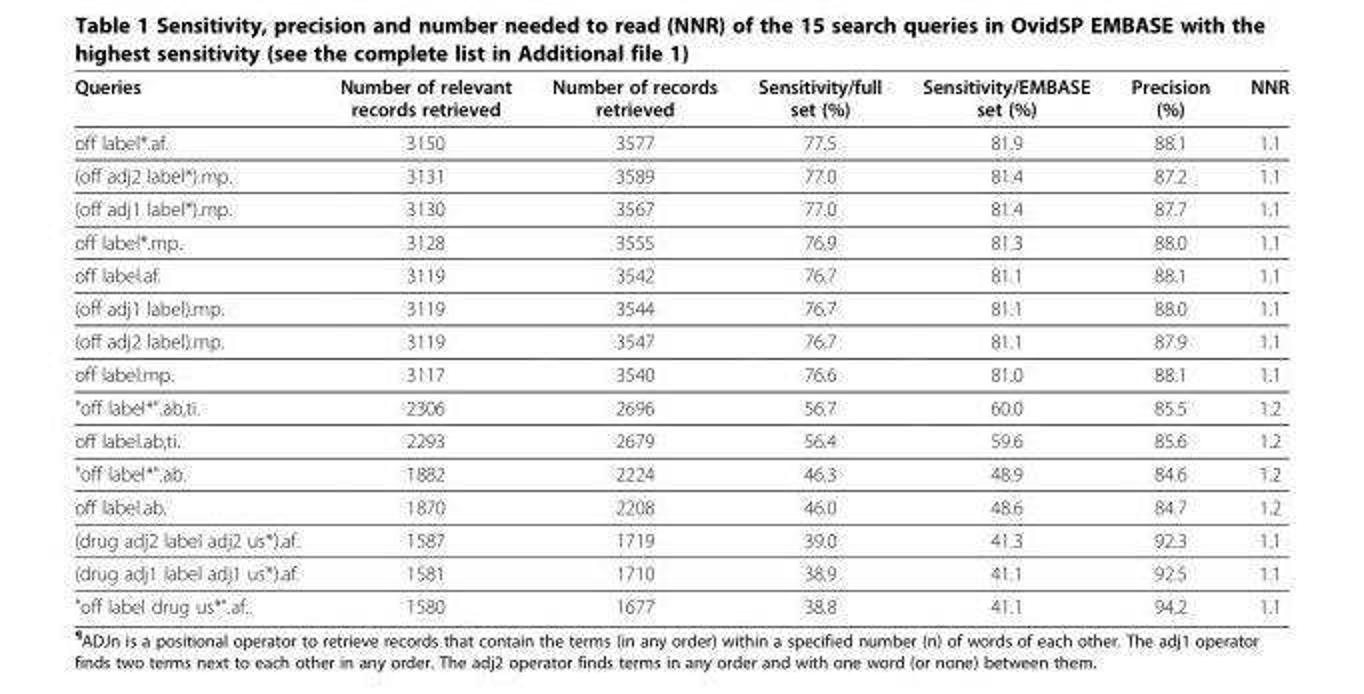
<table><thead><tr><td>Queries</td><td>Number of relevant records retrieved</td><td>Number of records retrieved</td><td>Sensitivity/full set (%)</td><td>Sensitivity/EMBASE set (%)</td><td>Precision (%)</td><td>NNR</td></tr></thead><tbody><tr><td>off label*.af.</td><td>3150</td><td>3577</td><td>77.5</td><td>81.9</td><td>88.1</td><td>1.1</td></tr><tr><td>(off adj2 label*).mp.</td><td>3131</td><td>3589</td><td>77.0</td><td>81.4</td><td>87.2</td><td>1.1</td></tr><tr><td>(off adj1 label*).mp.</td><td>3130</td><td>3567</td><td>77.0</td><td>81.4</td><td>87.7</td><td>1.1</td></tr><tr><td>off label*.mp.</td><td>3128</td><td>3555</td><td>76.9</td><td>81.3</td><td>88.0</td><td>1.1</td></tr><tr><td>off label.af.</td><td>3119</td><td>3542</td><td>76.7</td><td>81.1</td><td>88.1</td><td>1.1</td></tr><tr><td>(off adj1 label).mp.</td><td>3119</td><td>3544</td><td>76.7</td><td>81.1</td><td>88.0</td><td>1.1</td></tr><tr><td>(off adj2 label).mp.</td><td>3119</td><td>3547</td><td>76.7</td><td>81.1</td><td>87.9</td><td>1.1</td></tr><tr><td>off label.mp.</td><td>3117</td><td>3540</td><td>76.6</td><td>81.0</td><td>88.1</td><td>1.1</td></tr><tr><td>&quot;off label*&quot;.ab,ti.</td><td>2306</td><td>2696</td><td>56.7</td><td>60.0</td><td>85.5</td><td>1.2</td></tr><tr><td>off label.ab,ti.</td><td>2293</td><td>2679</td><td>56.4</td><td>59.6</td><td>85.6</td><td>1.2</td></tr><tr><td>&quot;off label*&quot;.ab.</td><td>1882</td><td>2224</td><td>46.3</td><td>48.9</td><td>84.6</td><td>1.2</td></tr><tr><td>off label.ab.</td><td>1870</td><td>2208</td><td>46.0</td><td>48.6</td><td>84.7</td><td>1.2</td></tr><tr><td>(drug adj2 label adj2 us*).af.</td><td>1587</td><td>1719</td><td>39.0</td><td>41.3</td><td>92.3</td><td>1.1</td></tr><tr><td>(drug adj1 label adj1 us*).af.</td><td>1581</td><td>1710</td><td>38.9</td><td>41.1</td><td>92.5</td><td>1.1</td></tr><tr><td>&quot;off label drug us*&quot;.af.</td><td>1580</td><td>1677</td><td>38.8</td><td>41.1</td><td>94.2</td><td>1.1</td></tr></tbody></table>